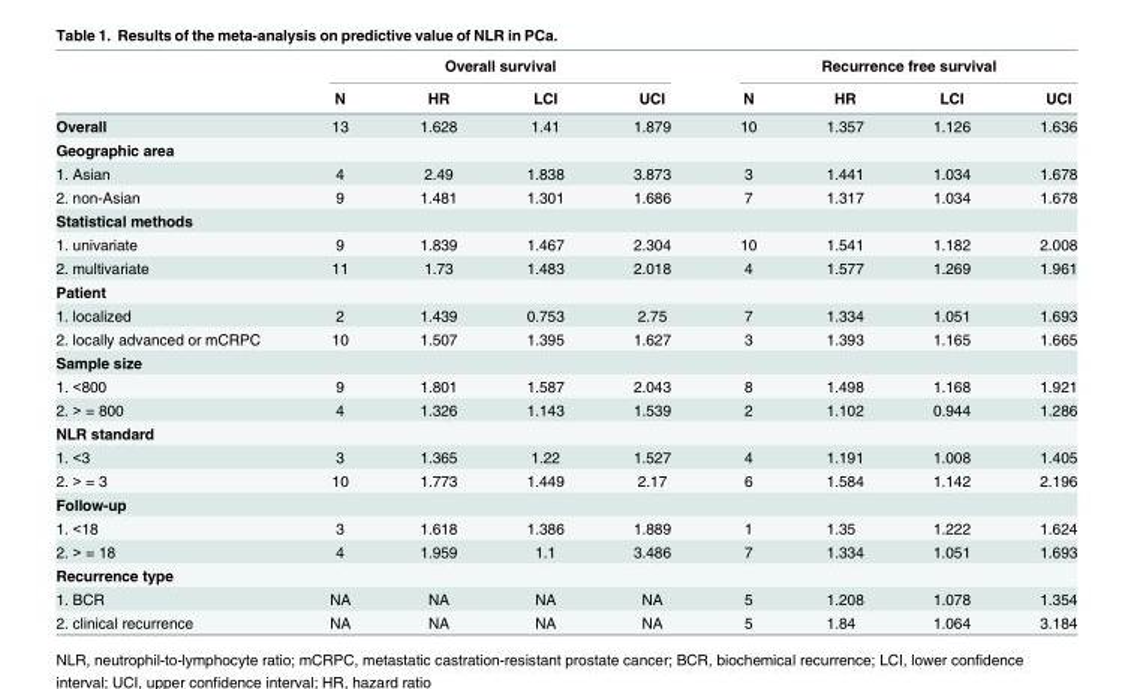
<table><thead><tr><td rowspan="2"></td><td colspan="4">Overall survival</td><td colspan="4">Recurrence free survival</td></tr><tr><td>N</td><td>HR</td><td>LCI</td><td>UCI</td><td>N</td><td>HR</td><td>LCI</td><td>UCI</td></tr></thead><tbody><tr><td>Overall</td><td>13</td><td>1.628</td><td>1.41</td><td>1.879</td><td>10</td><td>1.357</td><td>1.126</td><td>1.636</td></tr><tr><td colspan="9">Geographic area</td></tr><tr><td>1. Asian</td><td>4</td><td>2.49</td><td>1.838</td><td>3.873</td><td>3</td><td>1.441</td><td>1.034</td><td>1.678</td></tr><tr><td>2. non-Asian</td><td>9</td><td>1.481</td><td>1.301</td><td>1.686</td><td>7</td><td>1.317</td><td>1.034</td><td>1.678</td></tr><tr><td colspan="9">Statistical methods</td></tr><tr><td>1. univariate</td><td>9</td><td>1.839</td><td>1.467</td><td>2.304</td><td>10</td><td>1.541</td><td>1.182</td><td>2.008</td></tr><tr><td>2. multivariate</td><td>11</td><td>1.73</td><td>1.483</td><td>2.018</td><td>4</td><td>1.577</td><td>1.269</td><td>1.961</td></tr><tr><td colspan="9">Patient</td></tr><tr><td>1. localized</td><td>2</td><td>1.439</td><td>0.753</td><td>2.75</td><td>7</td><td>1.334</td><td>1.051</td><td>1.693</td></tr><tr><td>2. locally advanced or mCRPC</td><td>10</td><td>1.507</td><td>1.395</td><td>1.627</td><td>3</td><td>1.393</td><td>1.165</td><td>1.665</td></tr><tr><td colspan="9">Sample size</td></tr><tr><td>1. &lt;800</td><td>9</td><td>1.801</td><td>1.587</td><td>2.043</td><td>8</td><td>1.498</td><td>1.168</td><td>1.921</td></tr><tr><td>2. &gt; = 800</td><td>4</td><td>1.326</td><td>1.143</td><td>1.539</td><td>2</td><td>1.102</td><td>0.944</td><td>1.286</td></tr><tr><td colspan="9">NLR standard</td></tr><tr><td>1. &lt;3</td><td>3</td><td>1.365</td><td>1.22</td><td>1.527</td><td>4</td><td>1.191</td><td>1.008</td><td>1.405</td></tr><tr><td>2. &gt; = 3</td><td>10</td><td>1.773</td><td>1.449</td><td>2.17</td><td>6</td><td>1.584</td><td>1.142</td><td>2.196</td></tr><tr><td colspan="9">Follow-up</td></tr><tr><td>1. &lt;18</td><td>3</td><td>1.618</td><td>1.386</td><td>1.889</td><td>1</td><td>1.35</td><td>1.222</td><td>1.624</td></tr><tr><td>2. &gt; = 18</td><td>4</td><td>1.959</td><td>1.1</td><td>3.486</td><td>7</td><td>1.334</td><td>1.051</td><td>1.693</td></tr><tr><td colspan="9">Recurrence type</td></tr><tr><td>1. BCR</td><td>NA</td><td>NA</td><td>NA</td><td>NA</td><td>5</td><td>1.208</td><td>1.078</td><td>1.354</td></tr><tr><td>2. clinical recurrence</td><td>NA</td><td>NA</td><td>NA</td><td>NA</td><td>5</td><td>1.84</td><td>1.064</td><td>3.184</td></tr></tbody></table>